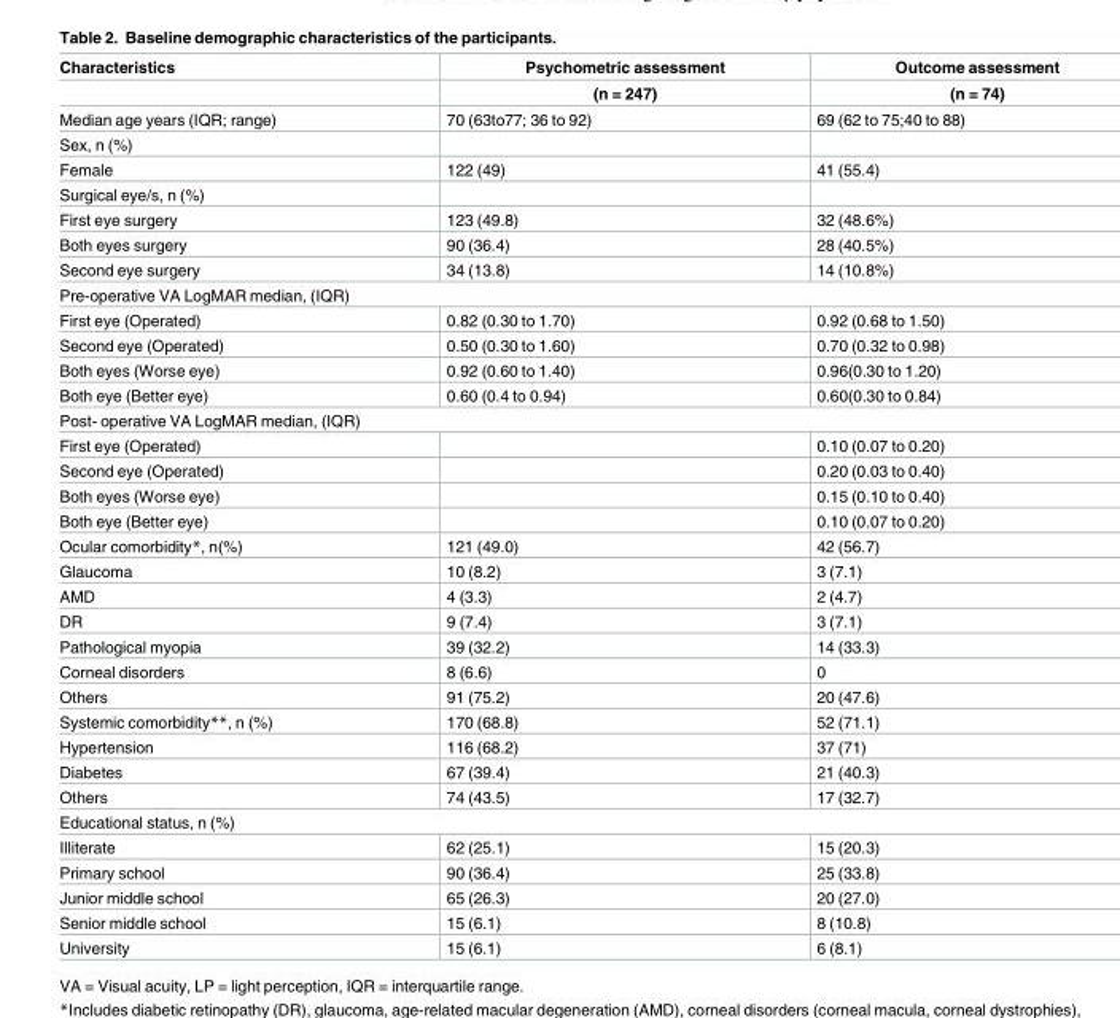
<table><thead><tr><td rowspan="2">Characteristics</td><td rowspan="2">Psychometric assessment (n = 247)</td><td rowspan="2">Outcome assessment (n = 74)</td></tr><tr></tr></thead><tbody><tr><td>Median age years (IQR; range)</td><td>70 (63to77; 36 to 92)</td><td>69 (62 to 75;40 to 88)</td></tr><tr><td colspan="3">Sex, n (%)</td></tr><tr><td>Female</td><td>122 (49)</td><td>41 (55.4)</td></tr><tr><td colspan="3">Surgical eye/s, n (%)</td></tr><tr><td>First eye surgery</td><td>123 (49.8)</td><td>32 (48.6%)</td></tr><tr><td>Both eyes surgery</td><td>90 (36.4)</td><td>28 (40.5%)</td></tr><tr><td>Second eye surgery</td><td>34 (13.8)</td><td>14 (10.8%)</td></tr><tr><td colspan="3">Pre-operative VA LogMAR median, (IQR)</td></tr><tr><td>First eye (Operated)</td><td>0.82 (0.30 to 1.70)</td><td>0.92 (0.68 to 1.50)</td></tr><tr><td>Second eye (Operated)</td><td>0.50 (0.30 to 1.60)</td><td>0.70 (0.32 to 0.98)</td></tr><tr><td>Both eyes (Worse eye)</td><td>0.92 (0.60 to 1.40)</td><td>0.96(0.30 to 1.20)</td></tr><tr><td>Both eye (Better eye)</td><td>0.60 (0.4 to 0.94)</td><td>0.60(0.30 to 0.84)</td></tr><tr><td colspan="3">Post- operative VA LogMAR median, (IQR)</td></tr><tr><td>First eye (Operated)</td><td></td><td>0.10 (0.07 to 0.20)</td></tr><tr><td>Second eye (Operated)</td><td></td><td>0.20 (0.03 to 0.40)</td></tr><tr><td>Both eyes (Worse eye)</td><td></td><td>0.15 (0.10 to 0.40)</td></tr><tr><td>Both eye (Better eye)</td><td></td><td>0.10 (0.07 to 0.20)</td></tr><tr><td>Ocular comorbidity*, n(%)</td><td>121 (49.0)</td><td>42 (56.7)</td></tr><tr><td>Glaucoma</td><td>10 (8.2)</td><td>3 (7.1)</td></tr><tr><td>AMD</td><td>4 (3.3)</td><td>2 (4.7)</td></tr><tr><td>DR</td><td>9 (7.4)</td><td>3 (7.1)</td></tr><tr><td>Pathological myopia</td><td>39 (32.2)</td><td>14 (33.3)</td></tr><tr><td>Corneal disorders</td><td>8 (6.6)</td><td>0</td></tr><tr><td>Others</td><td>91 (75.2)</td><td>20 (47.6)</td></tr><tr><td>Systemic comorbidity**, n (%)</td><td>170 (68.8)</td><td>52 (71.1)</td></tr><tr><td>Hypertension</td><td>116 (68.2)</td><td>37 (71)</td></tr><tr><td>Diabetes</td><td>67 (39.4)</td><td>21 (40.3)</td></tr><tr><td>Others</td><td>74 (43.5)</td><td>17 (32.7)</td></tr><tr><td colspan="3">Educational status, n (%)</td></tr><tr><td>Illiterate</td><td>62 (25.1)</td><td>15 (20.3)</td></tr><tr><td>Primary school</td><td>90 (36.4)</td><td>25 (33.8)</td></tr><tr><td>Junior middle school</td><td>65 (26.3)</td><td>20 (27.0)</td></tr><tr><td>Senior middle school</td><td>15 (6.1)</td><td>8 (10.8)</td></tr><tr><td>University</td><td>15 (6.1)</td><td>6 (8.1)</td></tr></tbody></table>